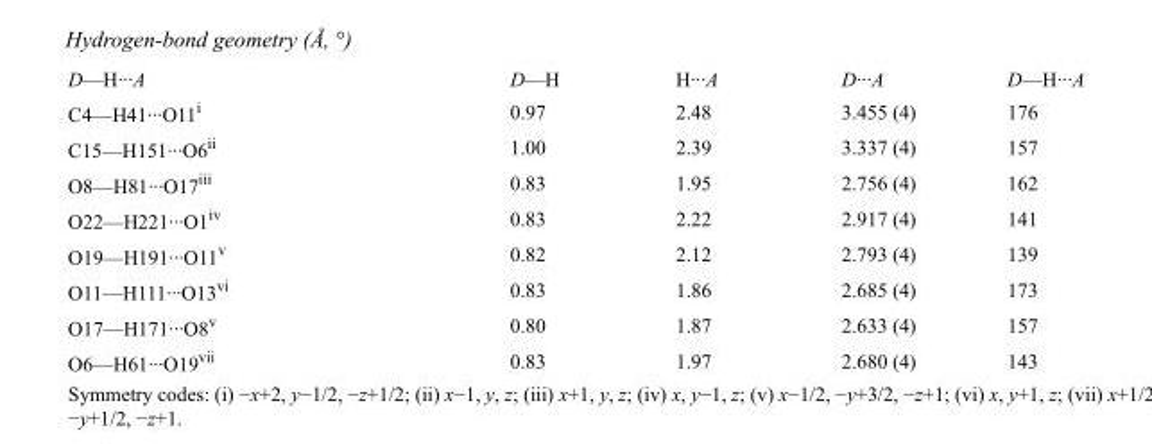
<table><tbody><tr><td>D—H···A</td><td>D—H</td><td>H···A</td><td>D···A</td><td>D—H···A</td></tr><tr><td>C4—H41···O11<sup>i</sup></td><td>0.97</td><td>2.48</td><td>3.455 (4)</td><td>176</td></tr><tr><td>C15—H151···O6<sup>ii</sup></td><td>1.00</td><td>2.39</td><td>3.337 (4)</td><td>157</td></tr><tr><td>O8—H81···O17<sup>iii</sup></td><td>0.83</td><td>1.95</td><td>2.756 (4)</td><td>162</td></tr><tr><td>O22—H221···O1<sup>iv</sup></td><td>0.83</td><td>2.22</td><td>2.917 (4)</td><td>141</td></tr><tr><td>O19—H191···O11<sup>v</sup></td><td>0.82</td><td>2.12</td><td>2.793 (4)</td><td>139</td></tr><tr><td>O11—H111···O13<sup>vi</sup></td><td>0.83</td><td>1.86</td><td>2.685 (4)</td><td>173</td></tr><tr><td>O17—H171···O8<sup>v</sup></td><td>0.80</td><td>1.87</td><td>2.633 (4)</td><td>157</td></tr><tr><td>O6—H61···O19<sup>vii</sup></td><td>0.83</td><td>1.97</td><td>2.680 (4)</td><td>143</td></tr></tbody></table>